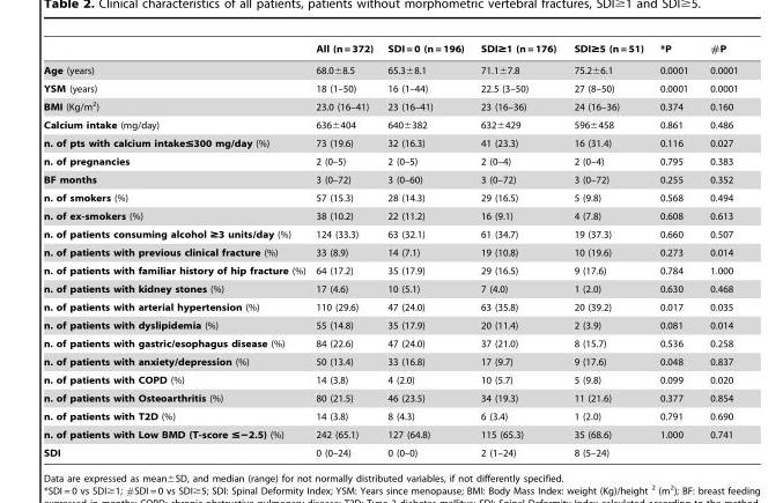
<table><thead><tr><td></td><td>All (n = 372)</td><td>SDI = 0 (n = 196)</td><td>SDI≥1 (n = 176)</td><td>SDI≥5 (n = 51)</td><td>*P</td><td>#P</td></tr></thead><tbody><tr><td>Age (years)</td><td>68.0±8.5</td><td>65.3±8.1</td><td>71.1±7.8</td><td>75.2±6.1</td><td>0.0001</td><td>0.0001</td></tr><tr><td>YSM (years)</td><td>18 (1–50)</td><td>16 (1–44)</td><td>22.5 (3–50)</td><td>27 (8–50)</td><td>0.0001</td><td>0.0001</td></tr><tr><td>BMI (Kg/m<sup>2</sup>)</td><td>23.0 (16–41)</td><td>23 (16–41)</td><td>23 (16–36)</td><td>24 (16–36)</td><td>0.374</td><td>0.160</td></tr><tr><td>Calcium intake (mg/day)</td><td>636±404</td><td>640±382</td><td>632±429</td><td>596±458</td><td>0.861</td><td>0.486</td></tr><tr><td>n. of pts with calcium intake≤300 mg/day (%)</td><td>73 (19.6)</td><td>32 (16.3)</td><td>41 (23.3)</td><td>16 (31.4)</td><td>0.116</td><td>0.027</td></tr><tr><td>n. of pregnancies</td><td>2 (0–5)</td><td>2 (0–5)</td><td>2 (0–4)</td><td>2 (0–4)</td><td>0.795</td><td>0.383</td></tr><tr><td>BF months</td><td>3 (0–72)</td><td>3 (0–60)</td><td>3 (0–72)</td><td>3 (0–72)</td><td>0.255</td><td>0.352</td></tr><tr><td>n. of smokers (%)</td><td>57 (15.3)</td><td>28 (14.3)</td><td>29 (16.5)</td><td>5 (9.8)</td><td>0.568</td><td>0.494</td></tr><tr><td>n. of ex-smokers (%)</td><td>38 (10.2)</td><td>22 (11.2)</td><td>16 (9.1)</td><td>4 (7.8)</td><td>0.608</td><td>0.613</td></tr><tr><td>n. of patients consuming alcohol ≥3 units/day (%)</td><td>124 (33.3)</td><td>63 (32.1)</td><td>61 (34.7)</td><td>19 (37.3)</td><td>0.660</td><td>0.507</td></tr><tr><td>n. of patients with previous clinical fracture (%)</td><td>33 (8.9)</td><td>14 (7.1)</td><td>19 (10.8)</td><td>10 (19.6)</td><td>0.273</td><td>0.014</td></tr><tr><td>n. of patients with familiar history of hip fracture (%)</td><td>64 (17.2)</td><td>35 (17.9)</td><td>29 (16.5)</td><td>9 (17.6)</td><td>0.784</td><td>1.000</td></tr><tr><td>n. of patients with kidney stones (%)</td><td>17 (4.6)</td><td>10 (5.1)</td><td>7 (4.0)</td><td>1 (2.0)</td><td>0.630</td><td>0.468</td></tr><tr><td>n. of patients with arterial hypertension (%)</td><td>110 (29.6)</td><td>47 (24.0)</td><td>63 (35.8)</td><td>20 (39.2)</td><td>0.017</td><td>0.035</td></tr><tr><td>n. of patients with dyslipidemia (%)</td><td>55 (14.8)</td><td>35 (17.9)</td><td>20 (11.4)</td><td>2 (3.9)</td><td>0.081</td><td>0.014</td></tr><tr><td>n. of patients with gastric/esophagus disease (%)</td><td>84 (22.6)</td><td>47 (24.0)</td><td>37 (21.0)</td><td>8 (15.7)</td><td>0.536</td><td>0.258</td></tr><tr><td>n. of patients with anxiety/depression (%)</td><td>50 (13.4)</td><td>33 (16.8)</td><td>17 (9.7)</td><td>9 (17.6)</td><td>0.048</td><td>0.837</td></tr><tr><td>n. of patients with COPD (%)</td><td>14 (3.8)</td><td>4 (2.0)</td><td>10 (5.7)</td><td>5 (9.8)</td><td>0.099</td><td>0.020</td></tr><tr><td>n. of patients with Osteoarthritis (%)</td><td>80 (21.5)</td><td>46 (23.5)</td><td>34 (19.3)</td><td>11 (21.6)</td><td>0.377</td><td>0.854</td></tr><tr><td>n. of patients with T2D (%)</td><td>14 (3.8)</td><td>8 (4.3)</td><td>6 (3.4)</td><td>1 (2.0)</td><td>0.791</td><td>0.690</td></tr><tr><td>n. of patients with Low BMD (T-score ≤−2.5) (%)</td><td>242 (65.1)</td><td>127 (64.8)</td><td>115 (65.3)</td><td>35 (68.6)</td><td>1.000</td><td>0.741</td></tr><tr><td>SDI</td><td>0 (0–24)</td><td>0 (0–0)</td><td>2 (1–24)</td><td>8 (5–24)</td><td></td><td></td></tr></tbody></table>